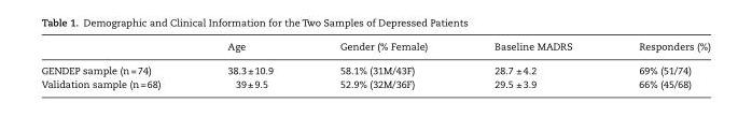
<table><thead><tr><td></td><td>Age</td><td>Gender (% Female)</td><td>Baseline MADRS</td><td>Responders (%)</td></tr></thead><tbody><tr><td>GENDEP sample (n = 74)</td><td>38.3 ± 10.9</td><td>58.1% (31M/43F)</td><td>28.7 ± 4.2</td><td>69% (51/74)</td></tr><tr><td>Validation sample (n = 68)</td><td>39 ± 9.5</td><td>52.9% (32M/36F)</td><td>29.5 ± 3.9</td><td>66% (45/68)</td></tr></tbody></table>